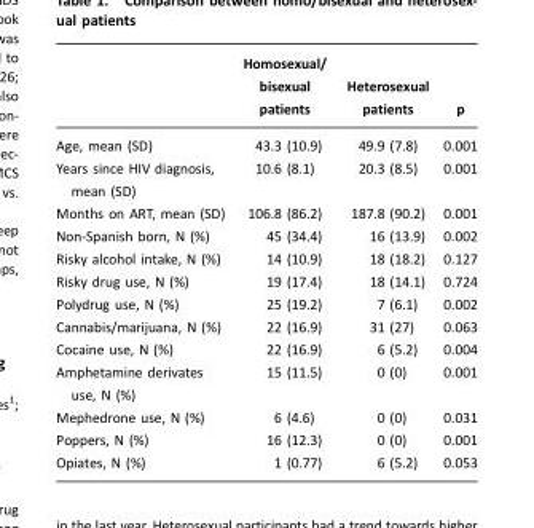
<table><thead><tr><td></td><td>Homosexual/ bisexual patients</td><td>Heterosexual patients</td><td>p</td></tr></thead><tbody><tr><td>Age, mean (SD)</td><td>43.3 (10.9)</td><td>49.9 (7.8)</td><td>0.001</td></tr><tr><td>Years since HIV diagnosis, mean (SD)</td><td>10.6 (8.1)</td><td>20.3 (8.5)</td><td>0.001</td></tr><tr><td>Months on ART, mean (SD)</td><td>106.8 (86.2)</td><td>187.8 (90.2)</td><td>0.001</td></tr><tr><td>Non-Spanish born, N (%)</td><td>45 (34.4)</td><td>16 (13.9)</td><td>0.002</td></tr><tr><td>Risky alcohol intake, N (%)</td><td>14 (10.9)</td><td>18 (18.2)</td><td>0.127</td></tr><tr><td>Risky drug use, N (%)</td><td>19 (17.4)</td><td>18 (14.1)</td><td>0.724</td></tr><tr><td>Polydrug use, N (%)</td><td>25 (19.2)</td><td>7 (6.1)</td><td>0.002</td></tr><tr><td>Cannabis/marijuana, N (%)</td><td>22 (16.9)</td><td>31 (27)</td><td>0.063</td></tr><tr><td>Cocaine use, N (%)</td><td>22 (16.9)</td><td>6 (5.2)</td><td>0.004</td></tr><tr><td>Amphetamine derivates use, N (%)</td><td>15 (11.5)</td><td>0 (0)</td><td>0.001</td></tr><tr><td>Mephedrone use, N (%)</td><td>6 (4.6)</td><td>0 (0)</td><td>0.031</td></tr><tr><td>Poppers, N (%)</td><td>16 (12.3)</td><td>0 (0)</td><td>0.001</td></tr><tr><td>Opiates, N (%)</td><td>1 (0.77)</td><td>6 (5.2)</td><td>0.053</td></tr></tbody></table>